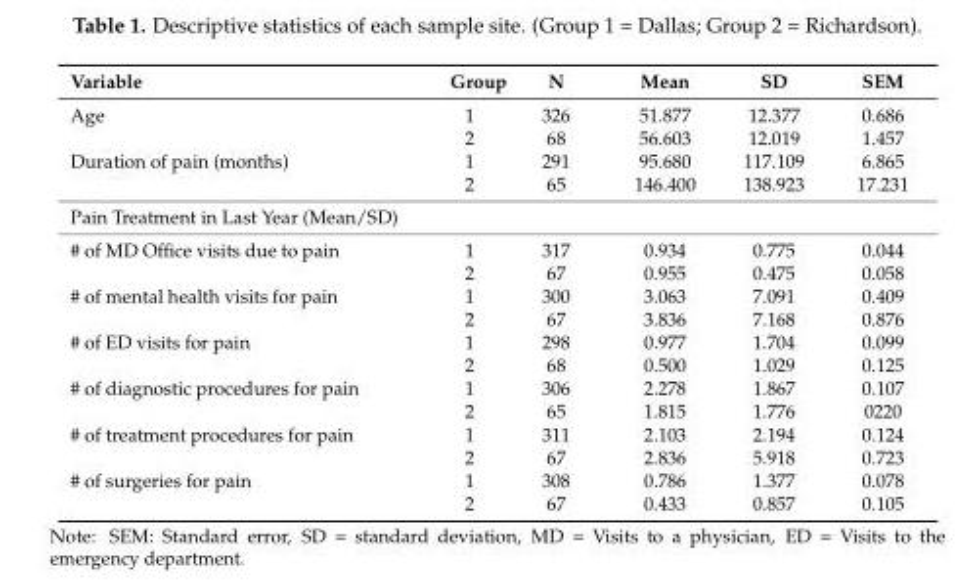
<table><thead><tr><td>Variable</td><td>Group</td><td>N</td><td>Mean</td><td>SD</td><td>SEM</td></tr></thead><tbody><tr><td rowspan="2">Age</td><td>1</td><td>326</td><td>51.877</td><td>12.377</td><td>0.686</td></tr><tr><td>2</td><td>68</td><td>56.603</td><td>12.019</td><td>1.457</td></tr><tr><td rowspan="2">Duration of pain (months)</td><td>1</td><td>291</td><td>95.680</td><td>117.109</td><td>6.865</td></tr><tr><td>2</td><td>65</td><td>146.400</td><td>138.923</td><td>17.231</td></tr><tr><td colspan="6">Pain Treatment in Last Year (Mean/SD)</td></tr><tr><td rowspan="2"># of MD Office visits due to pain</td><td>1</td><td>317</td><td>0.934</td><td>0.775</td><td>0.044</td></tr><tr><td>2</td><td>67</td><td>0.955</td><td>0.475</td><td>0.058</td></tr><tr><td rowspan="2"># of mental health visits for pain</td><td>1</td><td>300</td><td>3.063</td><td>7.091</td><td>0.409</td></tr><tr><td>2</td><td>67</td><td>3.836</td><td>7.168</td><td>0.876</td></tr><tr><td rowspan="2"># of ED visits for pain</td><td>1</td><td>298</td><td>0.977</td><td>1.704</td><td>0.099</td></tr><tr><td>2</td><td>68</td><td>0.500</td><td>1.029</td><td>0.125</td></tr><tr><td rowspan="2"># of diagnostic procedures for pain</td><td>1</td><td>306</td><td>2.278</td><td>1.867</td><td>0.107</td></tr><tr><td>2</td><td>65</td><td>1.815</td><td>1.776</td><td>0220</td></tr><tr><td rowspan="2"># of treatment procedures for pain</td><td>1</td><td>311</td><td>2.103</td><td>2.194</td><td>0.124</td></tr><tr><td>2</td><td>67</td><td>2.836</td><td>5.918</td><td>0.723</td></tr><tr><td rowspan="2"># of surgeries for pain</td><td>1</td><td>308</td><td>0.786</td><td>1.377</td><td>0.078</td></tr><tr><td>2</td><td>67</td><td>0.433</td><td>0.857</td><td>0.105</td></tr></tbody></table>